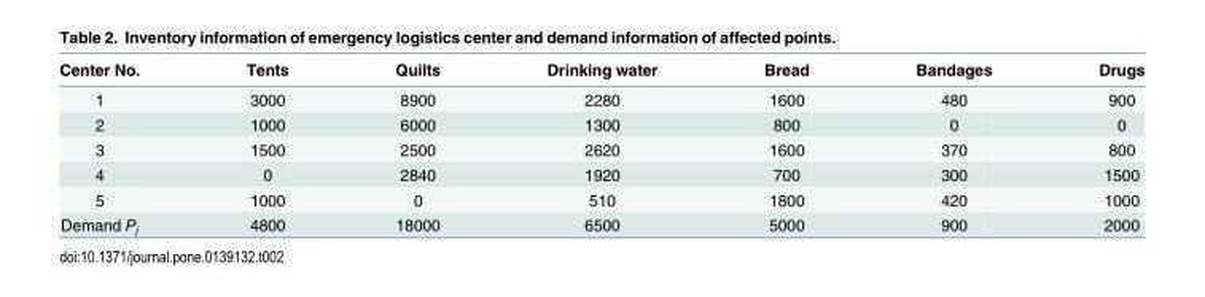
<table><thead><tr><td>Center No.</td><td>Tents</td><td>Quilts</td><td>Drinking water</td><td>Bread</td><td>Bandages</td><td>Drugs</td></tr></thead><tbody><tr><td>1</td><td>3000</td><td>8900</td><td>2280</td><td>1600</td><td>480</td><td>900</td></tr><tr><td>2</td><td>1000</td><td>6000</td><td>1300</td><td>800</td><td>0</td><td>0</td></tr><tr><td>3</td><td>1500</td><td>2500</td><td>2620</td><td>1600</td><td>370</td><td>800</td></tr><tr><td>4</td><td>0</td><td>2840</td><td>1920</td><td>700</td><td>300</td><td>1500</td></tr><tr><td>5</td><td>1000</td><td>0</td><td>510</td><td>1800</td><td>420</td><td>1000</td></tr><tr><td>Demand P<sub>j</sub></td><td>4800</td><td>18000</td><td>6500</td><td>5000</td><td>900</td><td>2000</td></tr></tbody></table>